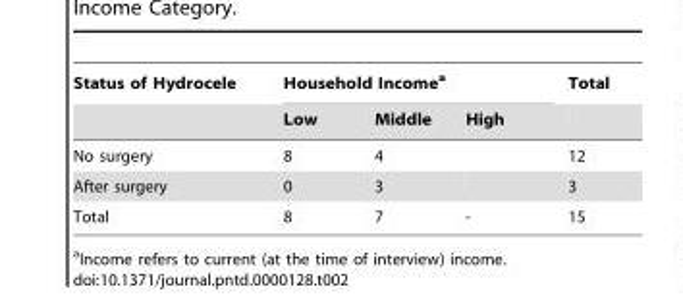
<table><thead><tr><td rowspan="2">Status of Hydrocele</td><td colspan="3">Household Income<sup>a</sup></td><td rowspan="2">Total</td></tr><tr><td>Low</td><td>Middle</td><td>High</td></tr></thead><tbody><tr><td>No surgery</td><td>8</td><td>4</td><td></td><td>12</td></tr><tr><td>After surgery</td><td>0</td><td>3</td><td></td><td>3</td></tr><tr><td>Total</td><td>8</td><td>7</td><td>-</td><td>15</td></tr></tbody></table>